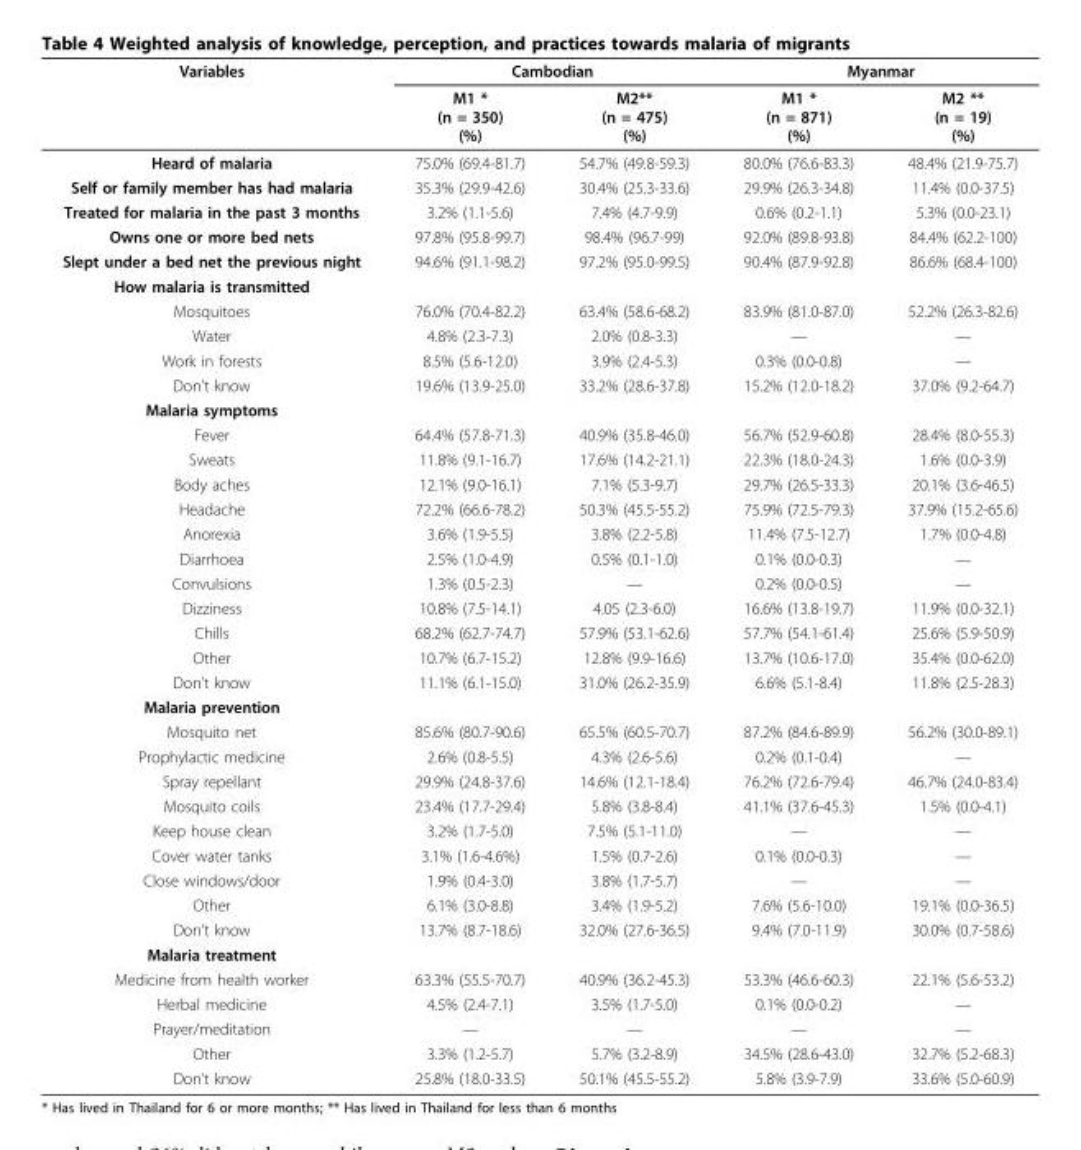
<table><thead><tr><td rowspan="2">Variables</td><td colspan="2">Cambodian</td><td colspan="2">Myanmar</td></tr><tr><td>M1 * (n = 350) (%)</td><td>M2** (n = 475) (%)</td><td>M1 * (n = 871) (%)</td><td>M2 ** (n = 19) (%)</td></tr></thead><tbody><tr><td>Heard of malaria</td><td>75.0% (69.4-81.7)</td><td>54.7% (49.8-59.3)</td><td>80.0% (76.6-83.3)</td><td>48.4% (21.9-75.7)</td></tr><tr><td>Self or family member has had malaria</td><td>35.3% (29.9-42.6)</td><td>30.4% (25.3-33.6)</td><td>29.9% (26.3-34.8)</td><td>11.4% (0.0-37.5)</td></tr><tr><td>Treated for malaria in the past 3 months</td><td>3.2% (1.1-5.6)</td><td>7.4% (4.7-9.9)</td><td>0.6% (0.2-1.1)</td><td>5.3% (0.0-23.1)</td></tr><tr><td>Owns one or more bed nets</td><td>97.8% (95.8-99.7)</td><td>98.4% (96.7-99)</td><td>92.0% (89.8-93.8)</td><td>84.4% (62.2-100)</td></tr><tr><td>Slept under a bed net the previous night</td><td>94.6% (91.1-98.2)</td><td>97.2% (95.0-99.5)</td><td>90.4% (87.9-92.8)</td><td>86.6% (68.4-100)</td></tr><tr><td colspan="5">How malaria is transmitted</td></tr><tr><td>Mosquitoes</td><td>76.0% (70.4-82.2)</td><td>63.4% (58.6-68.2)</td><td>83.9% (81.0-87.0)</td><td>52.2% (26.3-82.6)</td></tr><tr><td>Water</td><td>4.8% (2.3-7.3)</td><td>2.0% (0.8-3.3)</td><td>—</td><td>—</td></tr><tr><td>Work in forests</td><td>8.5% (5.6-12.0)</td><td>3.9% (2.4-5.3)</td><td>0.3% (0.0-0.8)</td><td>—</td></tr><tr><td>Don’t know</td><td>19.6% (13.9-25.0)</td><td>33.2% (28.6-37.8)</td><td>15.2% (12.0-18.2)</td><td>37.0% (9.2-64.7)</td></tr><tr><td colspan="5">Malaria symptoms</td></tr><tr><td>Fever</td><td>64.4% (57.8-71.3)</td><td>40.9% (35.8-46.0)</td><td>56.7% (52.9-60.8)</td><td>28.4% (8.0-55.3)</td></tr><tr><td>Sweats</td><td>11.8% (9.1-16.7)</td><td>17.6% (14.2-21.1)</td><td>22.3% (18.0-24.3)</td><td>1.6% (0.0-3.9)</td></tr><tr><td>Body aches</td><td>12.1% (9.0-16.1)</td><td>7.1% (5.3-9.7)</td><td>29.7% (26.5-33.3)</td><td>20.1% (3.6-46.5)</td></tr><tr><td>Headache</td><td>72.2% (66.6-78.2)</td><td>50.3% (45.5-55.2)</td><td>75.9% (72.5-79.3)</td><td>37.9% (15.2-65.6)</td></tr><tr><td>Anorexia</td><td>3.6% (1.9-5.5)</td><td>3.8% (2.2-5.8)</td><td>11.4% (7.5-12.7)</td><td>1.7% (0.0-4.8)</td></tr><tr><td>Diarrhoea</td><td>2.5% (1.0-4.9)</td><td>0.5% (0.1-1.0)</td><td>0.1% (0.0-0.3)</td><td>—</td></tr><tr><td>Convulsions</td><td>1.3% (0.5-2.3)</td><td>—</td><td>0.2% (0.0-0.5)</td><td>—</td></tr><tr><td>Dizziness</td><td>10.8% (7.5-14.1)</td><td>4.05 (2.3-6.0)</td><td>16.6% (13.8-19.7)</td><td>11.9% (0.0-32.1)</td></tr><tr><td>Chills</td><td>68.2% (62.7-74.7)</td><td>57.9% (53.1-62.6)</td><td>57.7% (54.1-61.4)</td><td>25.6% (5.9-50.9)</td></tr><tr><td>Other</td><td>10.7% (6.7-15.2)</td><td>12.8% (9.9-16.6)</td><td>13.7% (10.6-17.0)</td><td>35.4% (0.0-62.0)</td></tr><tr><td>Don’t know</td><td>11.1% (6.1-15.0)</td><td>31.0% (26.2-35.9)</td><td>6.6% (5.1-8.4)</td><td>11.8% (2.5-28.3)</td></tr><tr><td colspan="5">Malaria prevention</td></tr><tr><td>Mosquito net</td><td>85.6% (80.7-90.6)</td><td>65.5% (60.5-70.7)</td><td>87.2% (84.6-89.9)</td><td>56.2% (30.0-89.1)</td></tr><tr><td>Prophylactic medicine</td><td>2.6% (0.8-5.5)</td><td>4.3% (2.6-5.6)</td><td>0.2% (0.1-0.4)</td><td>—</td></tr><tr><td>Spray repellant</td><td>29.9% (24.8-37.6)</td><td>14.6% (12.1-18.4)</td><td>76.2% (72.6-79.4)</td><td>46.7% (24.0-83.4)</td></tr><tr><td>Mosquito coils</td><td>23.4% (17.7-29.4)</td><td>5.8% (3.8-8.4)</td><td>41.1% (37.6-45.3)</td><td>1.5% (0.0-4.1)</td></tr><tr><td>Keep house clean</td><td>3.2% (1.7-5.0)</td><td>7.5% (5.1-11.0)</td><td>—</td><td>—</td></tr><tr><td>Cover water tanks</td><td>3.1% (1.6-4.6%)</td><td>1.5% (0.7-2.6)</td><td>0.1% (0.0-0.3)</td><td>—</td></tr><tr><td>Close windows/door</td><td>1.9% (0.4-3.0)</td><td>3.8% (1.7-5.7)</td><td>—</td><td>—</td></tr><tr><td>Other</td><td>6.1% (3.0-8.8)</td><td>3.4% (1.9-5.2)</td><td>7.6% (5.6-10.0)</td><td>19.1% (0.0-36.5)</td></tr><tr><td>Don’t know</td><td>13.7% (8.7-18.6)</td><td>32.0% (27.6-36.5)</td><td>9.4% (7.0-11.9)</td><td>30.0% (0.7-58.6)</td></tr><tr><td colspan="5">Malaria treatment</td></tr><tr><td>Medicine from health worker</td><td>63.3% (55.5-70.7)</td><td>40.9% (36.2-45.3)</td><td>53.3% (46.6-60.3)</td><td>22.1% (5.6-53.2)</td></tr><tr><td>Herbal medicine</td><td>4.5% (2.4-7.1)</td><td>3.5% (1.7-5.0)</td><td>0.1% (0.0-0.2)</td><td>—</td></tr><tr><td>Prayer/meditation</td><td>—</td><td>—</td><td>—</td><td>—</td></tr><tr><td>Other</td><td>3.3% (1.2-5.7)</td><td>5.7% (3.2-8.9)</td><td>34.5% (28.6-43.0)</td><td>32.7% (5.2-68.3)</td></tr><tr><td>Don’t know</td><td>25.8% (18.0-33.5)</td><td>50.1% (45.5-55.2)</td><td>5.8% (3.9-7.9)</td><td>33.6% (5.0-60.9)</td></tr></tbody></table>